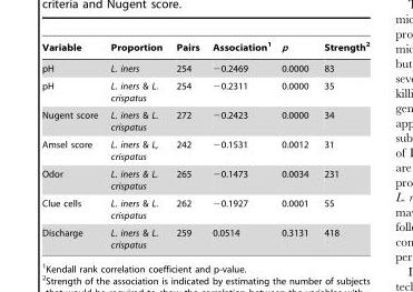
<table><thead><tr><td>Variable</td><td>Proportion</td><td>Pairs</td><td>Association<sup>1</sup></td><td>p</td><td>Strength<sup>2</sup></td></tr></thead><tbody><tr><td>pH</td><td>L. iners</td><td>254</td><td>−0.2469</td><td>0.0000</td><td>83</td></tr><tr><td>pH</td><td>L. iners &amp; L. crispatus</td><td>254</td><td>−0.2311</td><td>0.0000</td><td>35</td></tr><tr><td>Nugent score</td><td>L. iners &amp; L. crispatus</td><td>272</td><td>−0.2423</td><td>0.0000</td><td>34</td></tr><tr><td>Amsel score</td><td>L. iners &amp; L, crispatus</td><td>242</td><td>−0.1531</td><td>0.0012</td><td>31</td></tr><tr><td>Odor</td><td>L. iners &amp; L. crispatus</td><td>265</td><td>−0.1473</td><td>0.0034</td><td>231</td></tr><tr><td>Clue cells</td><td>L. iners &amp; L. crispatus</td><td>262</td><td>−0.1927</td><td>0.0001</td><td>55</td></tr><tr><td>Discharge</td><td>L. iners &amp; L. crispatus</td><td>259</td><td>0.0514</td><td>0.3131</td><td>418</td></tr></tbody></table>